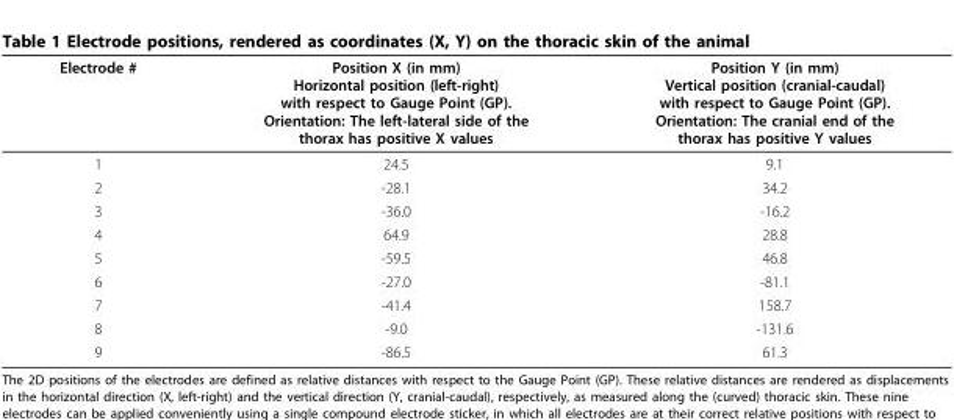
<table><thead><tr><td>Electrode #</td><td>Position X (in mm) Horizontal position (left-right) with respect to Gauge Point (GP). Orientation: The left-lateral side of the thorax has positive X values</td><td>Position Y (in mm) Vertical position (cranial-caudal) with respect to Gauge Point (GP). Orientation: The cranial end of the thorax has positive Y values</td></tr></thead><tbody><tr><td>1</td><td>24.5</td><td>9.1</td></tr><tr><td>2</td><td>-28.1</td><td>34.2</td></tr><tr><td>3</td><td>-36.0</td><td>-16.2</td></tr><tr><td>4</td><td>64.9</td><td>28.8</td></tr><tr><td>5</td><td>-59.5</td><td>46.8</td></tr><tr><td>6</td><td>-27.0</td><td>-81.1</td></tr><tr><td>7</td><td>-41.4</td><td>158.7</td></tr><tr><td>8</td><td>-9.0</td><td>-131.6</td></tr><tr><td>9</td><td>-86.5</td><td>61.3</td></tr></tbody></table>